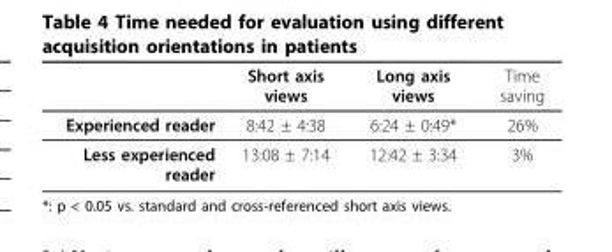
<table><thead><tr><td></td><td>Short axis views</td><td>Long axis views</td><td>Time saving</td></tr></thead><tbody><tr><td>Experienced reader</td><td>8:42 ± 4:38</td><td>6:24 ± 0:49*</td><td>26%</td></tr><tr><td>Less experienced reader</td><td>13:08 ± 7:14</td><td>12:42 ± 3:34</td><td>3%</td></tr></tbody></table>